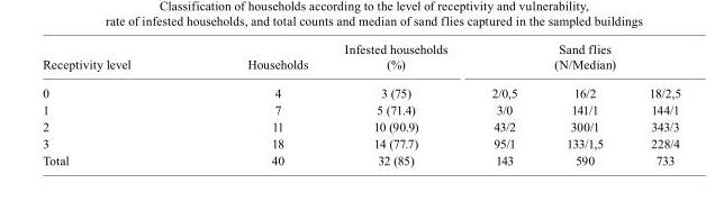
<table><thead><tr><td rowspan="2">Receptivity level 0</td><td rowspan="2">Households 4</td><td rowspan="2">Infested households (%) 3 (75)</td><td colspan="3">Sand flies (N/Median)</td></tr><tr><td>2/0,5</td><td>16/2</td><td>18/2,5</td></tr></thead><tbody><tr><td>1</td><td>7</td><td>5 (71.4)</td><td>3/0</td><td>141/1</td><td>144/1</td></tr><tr><td>2</td><td>11</td><td>10 (90.9)</td><td>43/2</td><td>300/1</td><td>343/3</td></tr><tr><td>3</td><td>18</td><td>14 (77.7)</td><td>95/1</td><td>133/1,5</td><td>228/4</td></tr><tr><td>Total</td><td>40</td><td>32 (85)</td><td>143</td><td>590</td><td>733</td></tr></tbody></table>